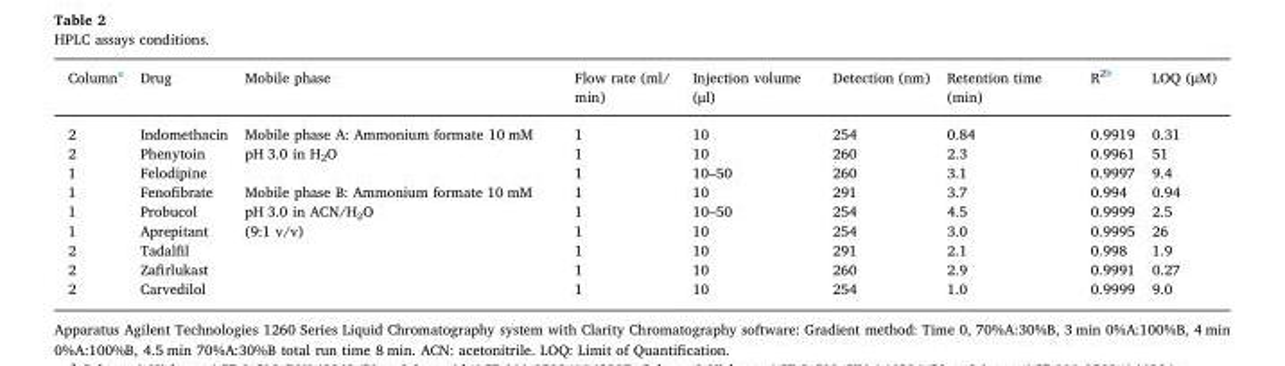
<table><thead><tr><td>Column<sup>a</sup></td><td>Drug</td><td>Mobile phase</td><td>Flow rate (ml/ min)</td><td>Injection volume (μl)</td><td>Detection (nm)</td><td>Retention time (min)</td><td>R<sup>2b</sup></td><td>LOQ (μM)</td></tr></thead><tbody><tr><td>2</td><td>Indomethacin</td><td rowspan="9">Mobile phase A: Ammonium formate 10 mM pH 3.0 in H<sub>2</sub>O Mobile phase B: Ammonium formate 10 mM pH 3.0 in ACN/H<sub>2</sub>O (9:1 v/v)</td><td>1</td><td>10</td><td>254</td><td>0.84</td><td>0.9919</td><td>0.31</td></tr><tr><td>2</td><td>Phenytoin</td><td>1</td><td>10</td><td>260</td><td>2.3</td><td>0.9961</td><td>51</td></tr><tr><td>1</td><td>Felodipine</td><td>1</td><td>10–50</td><td>260</td><td>3.1</td><td>0.9997</td><td>9.4</td></tr><tr><td>1</td><td>Fenofibrate</td><td>1</td><td>10</td><td>291</td><td>3.7</td><td>0.994</td><td>0.94</td></tr><tr><td>1</td><td>Probucol</td><td>1</td><td>10–50</td><td>254</td><td>4.5</td><td>0.9999</td><td>2.5</td></tr><tr><td>1</td><td>Aprepitant</td><td>1</td><td>10</td><td>254</td><td>3.0</td><td>0.9995</td><td>26</td></tr><tr><td>2</td><td>Tadalfil</td><td>1</td><td>10</td><td>291</td><td>2.1</td><td>0.998</td><td>1.9</td></tr><tr><td>2</td><td>Zafirlukast</td><td>1</td><td>10</td><td>260</td><td>2.9</td><td>0.9991</td><td>0.27</td></tr><tr><td>2</td><td>Carvedilol</td><td>1</td><td>10</td><td>254</td><td>1.0</td><td>0.9999</td><td>9.0</td></tr></tbody></table>